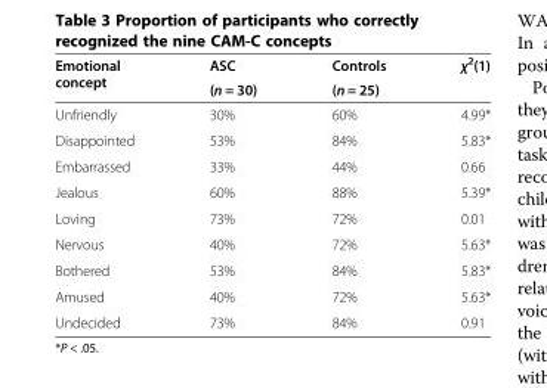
<table><thead><tr><td rowspan="2">Emotional concept</td><td rowspan="2">ASC (n = 30)</td><td rowspan="2">Controls (n = 25)</td><td rowspan="2">χ<sup>2</sup>(1)</td></tr><tr></tr></thead><tbody><tr><td>Unfriendly</td><td>30%</td><td>60%</td><td>4.99*</td></tr><tr><td>Disappointed</td><td>53%</td><td>84%</td><td>5.83*</td></tr><tr><td>Embarrassed</td><td>33%</td><td>44%</td><td>0.66</td></tr><tr><td>Jealous</td><td>60%</td><td>88%</td><td>5.39*</td></tr><tr><td>Loving</td><td>73%</td><td>72%</td><td>0.01</td></tr><tr><td>Nervous</td><td>40%</td><td>72%</td><td>5.63*</td></tr><tr><td>Bothered</td><td>53%</td><td>84%</td><td>5.83*</td></tr><tr><td>Amused</td><td>40%</td><td>72%</td><td>5.63*</td></tr><tr><td>Undecided</td><td>73%</td><td>84%</td><td>0.91</td></tr></tbody></table>